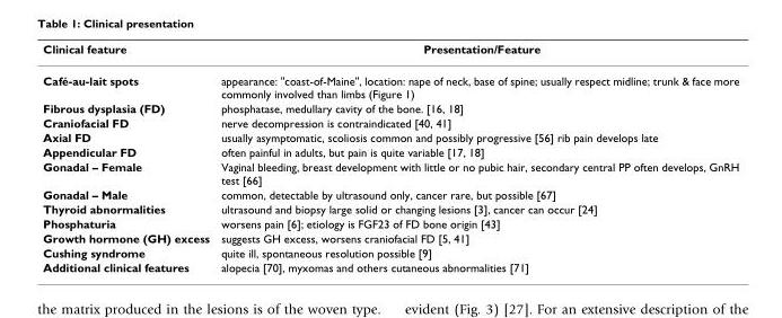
<table><thead><tr><td>Clinical feature</td><td>Presentation/Feature</td></tr></thead><tbody><tr><td>Café-au-lait spots</td><td>appearance: &quot;coast-of-Maine&quot;, location: nape of neck, base of spine; usually respect midline; trunk &amp; face more commonly involved than limbs (Figure 1)</td></tr><tr><td>Fibrous dysplasia (FD)</td><td>phosphatase, medullary cavity of the bone. [16, 18]</td></tr><tr><td>Craniofacial FD</td><td>nerve decompression is contraindicated [40, 41]</td></tr><tr><td>Axial FD</td><td>usually asymptomatic, scoliosis common and possibly progressive [56] rib pain develops late</td></tr><tr><td>Appendicular FD</td><td>often painful in adults, but pain is quite variable [17, 18]</td></tr><tr><td>Gonadal – Female</td><td>Vaginal bleeding, breast development with little or no pubic hair, secondary central PP often develops, GnRH test [66]</td></tr><tr><td>Gonadal – Male</td><td>common, detectable by ultrasound only, cancer rare, but possible [67]</td></tr><tr><td>Thyroid abnormalities</td><td>ultrasound and biopsy large solid or changing lesions [3], cancer can occur [24]</td></tr><tr><td>Phosphaturia</td><td>worsens pain [6]; etiology is FGF23 of FD bone origin [43]</td></tr><tr><td>Growth hormone (GH) excess</td><td>suggests GH excess, worsens craniofacial FD [5, 41]</td></tr><tr><td>Cushing syndrome</td><td>quite ill, spontaneous resolution possible [9]</td></tr><tr><td>Additional clinical features</td><td>alopecia [70], myxomas and others cutaneous abnormalities [71]</td></tr></tbody></table>